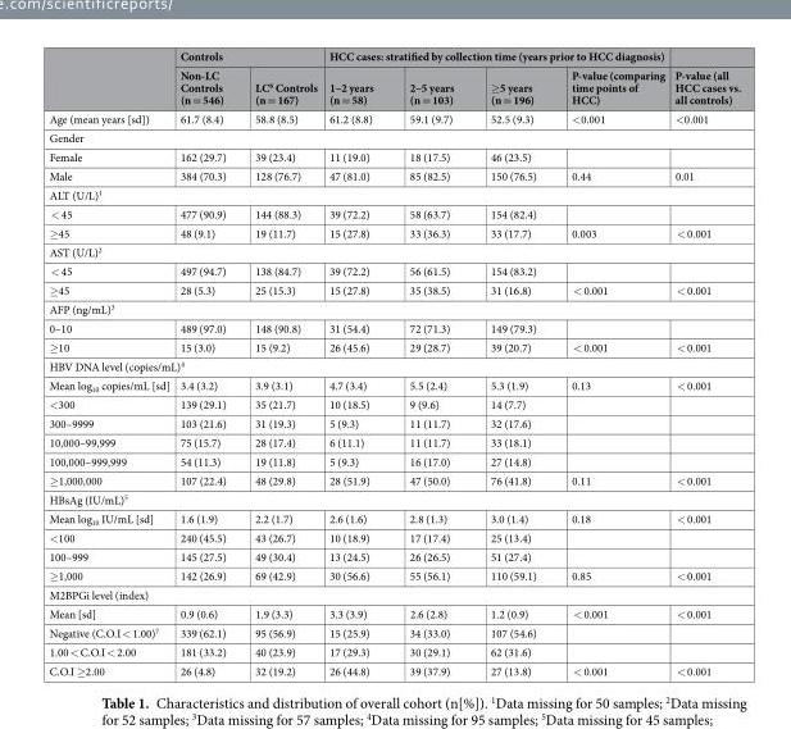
<table><thead><tr><td rowspan="2"></td><td colspan="2">Controls</td><td colspan="4">HCC cases: stratified by collection time (years prior to HCC diagnosis)</td><td rowspan="2">P-value (all HCC cases vs. all controls)</td></tr><tr><td>Non-LC Controls (n = 546)</td><td>LC<sup>6</sup> Controls (n = 167)</td><td>1–2 years (n = 58)</td><td>2–5 years (n = 103)</td><td>≥5 years (n = 196)</td><td>P-value (comparing time points of HCC)</td></tr></thead><tbody><tr><td>Age (mean years [sd])</td><td>61.7 (8.4)</td><td>58.8 (8.5)</td><td>61.2 (8.8)</td><td>59.1 (9.7)</td><td>52.5 (9.3)</td><td>&lt;0.001</td><td>&lt;0.001</td></tr><tr><td colspan="8">Gender</td></tr><tr><td>Female</td><td>162 (29.7)</td><td>39 (23.4)</td><td>11 (19.0)</td><td>18 (17.5)</td><td>46 (23.5)</td><td></td><td></td></tr><tr><td>Male</td><td>384 (70.3)</td><td>128 (76.7)</td><td>47 (81.0)</td><td>85 (82.5)</td><td>150 (76.5)</td><td>0.44</td><td>0.01</td></tr><tr><td colspan="8">ALT (U/L)<sup>1</sup></td></tr><tr><td>&lt; 45</td><td>477 (90.9)</td><td>144 (88.3)</td><td>39 (72.2)</td><td>58 (63.7)</td><td>154 (82.4)</td><td></td><td></td></tr><tr><td>≥45</td><td>48 (9.1)</td><td>19 (11.7)</td><td>15 (27.8)</td><td>33 (36.3)</td><td>33 (17.7)</td><td>0.003</td><td>&lt; 0.001</td></tr><tr><td colspan="8">AST (U/L)<sup>2</sup></td></tr><tr><td>&lt; 45</td><td>497 (94.7)</td><td>138 (84.7)</td><td>39 (72.2)</td><td>56 (61.5)</td><td>154 (83.2)</td><td></td><td></td></tr><tr><td>≥45</td><td>28 (5.3)</td><td>25 (15.3)</td><td>15 (27.8)</td><td>35 (38.5)</td><td>31 (16.8)</td><td>&lt; 0.001</td><td>&lt; 0.001</td></tr><tr><td colspan="8">AFP (ng/mL)<sup>3</sup></td></tr><tr><td>0–10</td><td>489 (97.0)</td><td>148 (90.8)</td><td>31 (54.4)</td><td>72 (71.3)</td><td>149 (79.3)</td><td></td><td></td></tr><tr><td>≥10</td><td>15 (3.0)</td><td>15 (9.2)</td><td>26 (45.6)</td><td>29 (28.7)</td><td>39 (20.7)</td><td>&lt; 0.001</td><td>&lt; 0.001</td></tr><tr><td colspan="8">HBV DNA level (copies/mL)<sup>4</sup></td></tr><tr><td>Mean log<sub>10</sub> copies/mL [sd]</td><td>3.4 (3.2)</td><td>3.9 (3.1)</td><td>4.7 (3.4)</td><td>5.5 (2.4)</td><td>5.3 (1.9)</td><td>0.13</td><td>&lt; 0.001</td></tr><tr><td>&lt;300</td><td>139 (29.1)</td><td>35 (21.7)</td><td>10 (18.5)</td><td>9 (9.6)</td><td>14 (7.7)</td><td></td><td></td></tr><tr><td>300–9999</td><td>103 (21.6)</td><td>31 (19.3)</td><td>5 (9.3)</td><td>11 (11.7)</td><td>32 (17.6)</td><td></td><td></td></tr><tr><td>10,000–99,999</td><td>75 (15.7)</td><td>28 (17.4)</td><td>6 (11.1)</td><td>11 (11.7)</td><td>33 (18.1)</td><td></td><td></td></tr><tr><td>100,000–999,999</td><td>54 (11.3)</td><td>19 (11.8)</td><td>5 (9.3)</td><td>16 (17.0)</td><td>27 (14.8)</td><td></td><td></td></tr><tr><td>≥1,000,000</td><td>107 (22.4)</td><td>48 (29.8)</td><td>28 (51.9)</td><td>47 (50.0)</td><td>76 (41.8)</td><td>0.11</td><td>&lt; 0.001</td></tr><tr><td colspan="8">HBsAg (IU/mL)<sup>5</sup></td></tr><tr><td>Mean log<sub>10</sub> IU/mL [sd]</td><td>1.6 (1.9)</td><td>2.2 (1.7)</td><td>2.6 (1.6)</td><td>2.8 (1.3)</td><td>3.0 (1.4)</td><td>0.18</td><td>&lt; 0.001</td></tr><tr><td>&lt;100</td><td>240 (45.5)</td><td>43 (26.7)</td><td>10 (18.9)</td><td>17 (17.4)</td><td>25 (13.4)</td><td></td><td></td></tr><tr><td>100–999</td><td>145 (27.5)</td><td>49 (30.4)</td><td>13 (24.5)</td><td>26 (26.5)</td><td>51 (27.4)</td><td></td><td></td></tr><tr><td>≥1,000</td><td>142 (26.9)</td><td>69 (42.9)</td><td>30 (56.6)</td><td>55 (56.1)</td><td>110 (59.1)</td><td>0.85</td><td>&lt; 0.001</td></tr><tr><td colspan="8">M2BPGi level (index)</td></tr><tr><td>Mean [sd]</td><td>0.9 (0.6)</td><td>1.9 (3.3)</td><td>3.3 (3.9)</td><td>2.6 (2.8)</td><td>1.2 (0.9)</td><td>&lt; 0.001</td><td>&lt; 0.001</td></tr><tr><td>Negative (C.O.I &lt; 1.00)<sup>7</sup></td><td>339 (62.1)</td><td>95 (56.9)</td><td>15 (25.9)</td><td>34 (33.0)</td><td>107 (54.6)</td><td></td><td></td></tr><tr><td>1.00 &lt; C.O.I &lt; 2.00</td><td>181 (33.2)</td><td>40 (23.9)</td><td>17 (29.3)</td><td>30 (29.1)</td><td>62 (31.6)</td><td></td><td></td></tr><tr><td>C.O.I ≥2.00</td><td>26 (4.8)</td><td>32 (19.2)</td><td>26 (44.8)</td><td>39 (37.9)</td><td>27 (13.8)</td><td>&lt; 0.001</td><td>&lt; 0.001</td></tr></tbody></table>